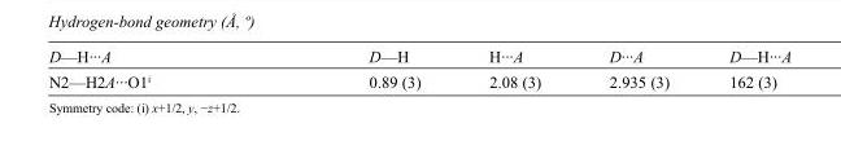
<table><tbody><tr><td>D—H···A</td><td>D—H</td><td>H···A</td><td>D···A</td><td>D—H···A</td></tr><tr><td>N2—H2A···O1<sup>i</sup></td><td>0.89 (3)</td><td>2.08 (3)</td><td>2.935 (3)</td><td>162 (3)</td></tr></tbody></table>